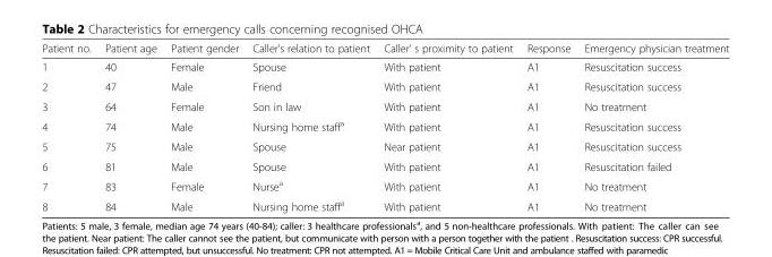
<table><thead><tr><td>Patient no.</td><td>Patient age</td><td>Patient gender</td><td>Caller&#x27;s relation to patient</td><td>Caller&#x27; s proximity to patient</td><td>Response</td><td>Emergency physician treatment</td></tr></thead><tbody><tr><td>1</td><td>40</td><td>Female</td><td>Spouse</td><td>With patient</td><td>A1</td><td>Resuscitation success</td></tr><tr><td>2</td><td>47</td><td>Male</td><td>Friend</td><td>With patient</td><td>A1</td><td>Resuscitation success</td></tr><tr><td>3</td><td>64</td><td>Female</td><td>Son in law</td><td>With patient</td><td>A1</td><td>No treatment</td></tr><tr><td>4</td><td>74</td><td>Male</td><td>Nursing home staff<sup>a</sup></td><td>With patient</td><td>A1</td><td>Resuscitation success</td></tr><tr><td>5</td><td>75</td><td>Male</td><td>Spouse</td><td>Near patient</td><td>A1</td><td>Resuscitation success</td></tr><tr><td>6</td><td>81</td><td>Male</td><td>Spouse</td><td>With patient</td><td>A1</td><td>Resuscitation failed</td></tr><tr><td>7</td><td>83</td><td>Female</td><td>Nurse<sup>a</sup></td><td>With patient</td><td>A1</td><td>No treatment</td></tr><tr><td>8</td><td>84</td><td>Male</td><td>Nursing home staff<sup>a</sup></td><td>With patient</td><td>A1</td><td>No treatment</td></tr></tbody></table>